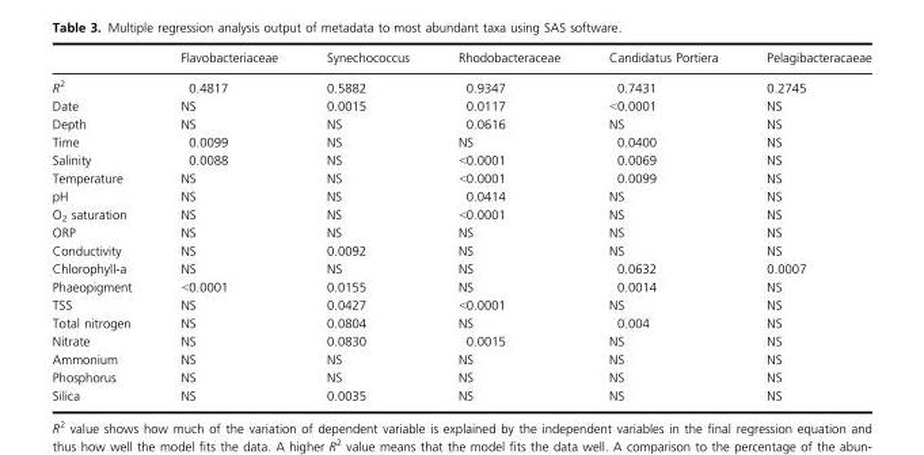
<table><thead><tr><td></td><td>Flavobacteriaceae</td><td>Synechococcus</td><td>Rhodobacteraceae</td><td>Candidatus Portiera</td><td>Pelagibacteracaeae</td></tr></thead><tbody><tr><td>R<sup>2</sup></td><td>0.4817</td><td>0.5882</td><td>0.9347</td><td>0.7431</td><td>0.2745</td></tr><tr><td>Date</td><td>NS</td><td>0.0015</td><td>0.0117</td><td>&lt;0.0001</td><td>NS</td></tr><tr><td>Depth</td><td>NS</td><td>NS</td><td>0.0616</td><td>NS</td><td>NS</td></tr><tr><td>Time</td><td>0.0099</td><td>NS</td><td>NS</td><td>0.0400</td><td>NS</td></tr><tr><td>Salinity</td><td>0.0088</td><td>NS</td><td>&lt;0.0001</td><td>0.0069</td><td>NS</td></tr><tr><td>Temperature</td><td>NS</td><td>NS</td><td>&lt;0.0001</td><td>0.0099</td><td>NS</td></tr><tr><td>pH</td><td>NS</td><td>NS</td><td>0.0414</td><td>NS</td><td>NS</td></tr><tr><td>O<sub>2</sub> saturation</td><td>NS</td><td>NS</td><td>&lt;0.0001</td><td>NS</td><td>NS</td></tr><tr><td>ORP</td><td>NS</td><td>NS</td><td>NS</td><td>NS</td><td>NS</td></tr><tr><td>Conductivity</td><td>NS</td><td>0.0092</td><td>NS</td><td>NS</td><td>NS</td></tr><tr><td>Chlorophyll-a</td><td>NS</td><td>NS</td><td>NS</td><td>0.0632</td><td>0.0007</td></tr><tr><td>Phaeopigment</td><td>&lt;0.0001</td><td>0.0155</td><td>NS</td><td>0.0014</td><td>NS</td></tr><tr><td>TSS</td><td>NS</td><td>0.0427</td><td>&lt;0.0001</td><td>NS</td><td>NS</td></tr><tr><td>Total nitrogen</td><td>NS</td><td>0.0804</td><td>NS</td><td>0.004</td><td>NS</td></tr><tr><td>Nitrate</td><td>NS</td><td>0.0830</td><td>0.0015</td><td>NS</td><td>NS</td></tr><tr><td>Ammonium</td><td>NS</td><td>NS</td><td>NS</td><td>NS</td><td>NS</td></tr><tr><td>Phosphorus</td><td>NS</td><td>NS</td><td>NS</td><td>NS</td><td>NS</td></tr><tr><td>Silica</td><td>NS</td><td>0.0035</td><td>NS</td><td>NS</td><td>NS</td></tr></tbody></table>